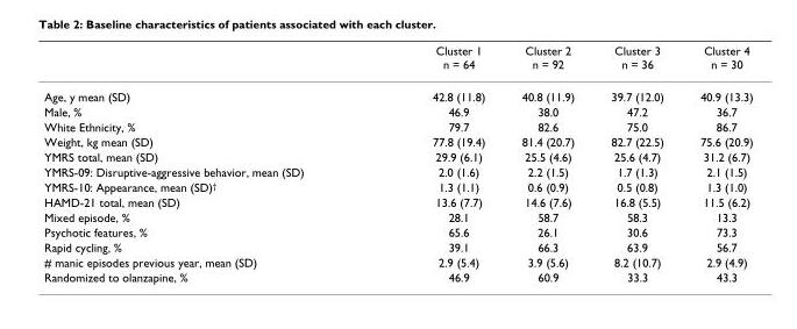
<table><thead><tr><td></td><td>Cluster 1 n = 64</td><td>Cluster 2 n = 92</td><td>Cluster 3 n = 36</td><td>Cluster 4 n = 30</td></tr></thead><tbody><tr><td>Age, y mean (SD)</td><td>42.8 (11.8)</td><td>40.8 (11.9)</td><td>39.7 (12.0)</td><td>40.9 (13.3)</td></tr><tr><td>Male, %</td><td>46.9</td><td>38.0</td><td>47.2</td><td>36.7</td></tr><tr><td>White Ethnicity, %</td><td>79.7</td><td>82.6</td><td>75.0</td><td>86.7</td></tr><tr><td>Weight, kg mean (SD)</td><td>77.8 (19.4)</td><td>81.4 (20.7)</td><td>82.7 (22.5)</td><td>75.6 (20.9)</td></tr><tr><td>YMRS total, mean (SD)</td><td>29.9 (6.1)</td><td>25.5 (4.6)</td><td>25.6 (4.7)</td><td>31.2 (6.7)</td></tr><tr><td>YMRS-09: Disruptive-aggressive behavior, mean (SD)</td><td>2.0 (1.6)</td><td>2.2 (1.5)</td><td>1.7 (1.3)</td><td>2.1 (1.5)</td></tr><tr><td>YMRS-10: Appearance, mean (SD)<sup>†</sup></td><td>1.3 (1.1)</td><td>0.6 (0.9)</td><td>0.5 (0.8)</td><td>1.3 (1.0)</td></tr><tr><td>HAMD-21 total, mean (SD)</td><td>13.6 (7.7)</td><td>14.6 (7.6)</td><td>16.8 (5.5)</td><td>11.5 (6.2)</td></tr><tr><td>Mixed episode, %</td><td>28.1</td><td>58.7</td><td>58.3</td><td>13.3</td></tr><tr><td>Psychotic features, %</td><td>65.6</td><td>26.1</td><td>30.6</td><td>73.3</td></tr><tr><td>Rapid cycling, %</td><td>39.1</td><td>66.3</td><td>63.9</td><td>56.7</td></tr><tr><td># manic episodes previous year, mean (SD)</td><td>2.9 (5.4)</td><td>3.9 (5.6)</td><td>8.2 (10.7)</td><td>2.9 (4.9)</td></tr><tr><td>Randomized to olanzapine, %</td><td>46.9</td><td>60.9</td><td>33.3</td><td>43.3</td></tr></tbody></table>